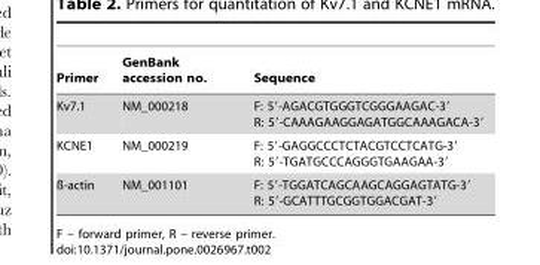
<table><thead><tr><td>Primer</td><td>GenBank accession no.</td><td>Sequence</td></tr></thead><tbody><tr><td>Kv7.1</td><td>NM_000218</td><td>F: 5′-AGACGTGGGTCGGGAAGAC-3′ R: 5′-CAAAGAAGGAGATGGCAAAGACA-3′</td></tr><tr><td>KCNE1</td><td>NM_000219</td><td>F: 5′-GAGGCCCTCTACGTCCTCATG-3′ R: 5′-TGATGCCCAGGGTGAAGAA-3′</td></tr><tr><td>ß-actin</td><td>NM_001101</td><td>F: 5′-TGGATCAGCAAGCAGGAGTATG-3′ R: 5′-GCATTTGCGGTGGACGAT-3′</td></tr></tbody></table>